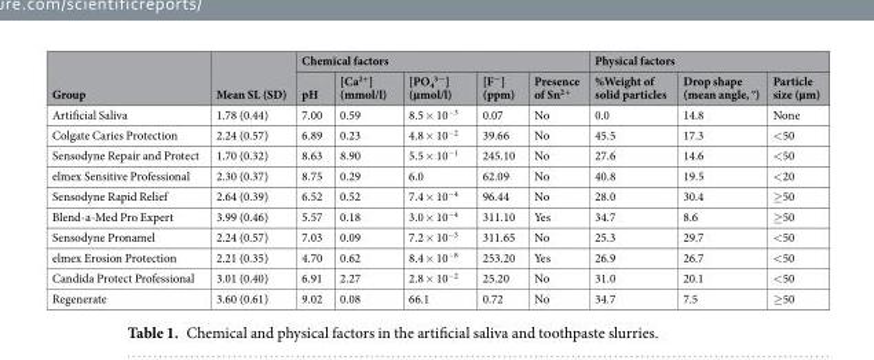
<table><thead><tr><td rowspan="2">Group</td><td rowspan="2">Mean SL (SD)</td><td colspan="5">Chemical factors</td><td colspan="3">Physical factors</td></tr><tr><td>pH</td><td>[Ca<sup>2+</sup>] (mmol/l)</td><td>[PO<sub>4</sub> <sup>3−</sup>] (µmol/l)</td><td>[F<sup>−</sup>] (ppm)</td><td>Presence of Sn<sup>2+</sup></td><td>%Weight of solid particles</td><td>Drop shape (mean angle, °)</td><td>Particle size (µm)</td></tr></thead><tbody><tr><td>Artificial Saliva</td><td>1.78 (0.44)</td><td>7.00</td><td>0.59</td><td>8.5 × 10<sup>−3</sup></td><td>0.07</td><td>No</td><td>0.0</td><td>14.8</td><td>None</td></tr><tr><td>Colgate Caries Protection</td><td>2.24 (0.57)</td><td>6.89</td><td>0.23</td><td>4.8 × 10<sup>−2</sup></td><td>39.66</td><td>No</td><td>45.5</td><td>17.3</td><td>&lt;50</td></tr><tr><td>Sensodyne Repair and Protect</td><td>1.70 (0.32)</td><td>8.63</td><td>8.90</td><td>5.5 × 10<sup>−1</sup></td><td>245.10</td><td>No</td><td>27.6</td><td>14.6</td><td>&lt;50</td></tr><tr><td>elmex Sensitive Professional</td><td>2.30 (0.37)</td><td>8.75</td><td>0.29</td><td>6.0</td><td>62.09</td><td>No</td><td>40.8</td><td>19.5</td><td>&lt;20</td></tr><tr><td>Sensodyne Rapid Relief</td><td>2.64 (0.39)</td><td>6.52</td><td>0.52</td><td>7.4 × 10<sup>−4</sup></td><td>96.44</td><td>No</td><td>28.0</td><td>30.4</td><td>≥50</td></tr><tr><td>Blend-a-Med Pro Expert</td><td>3.99 (0.46)</td><td>5.57</td><td>0.18</td><td>3.0 × 10<sup>−4</sup></td><td>311.10</td><td>Yes</td><td>34.7</td><td>8.6</td><td>≥50</td></tr><tr><td>Sensodyne Pronamel</td><td>2.24 (0.57)</td><td>7.03</td><td>0.09</td><td>7.2 × 10<sup>−3</sup></td><td>311.65</td><td>No</td><td>25.3</td><td>29.7</td><td>&lt;50</td></tr><tr><td>elmex Erosion Protection</td><td>2.21 (0.35)</td><td>4.70</td><td>0.62</td><td>8.4 × 10<sup>−8</sup></td><td>253.20</td><td>Yes</td><td>26.9</td><td>26.7</td><td>&lt;50</td></tr><tr><td>Candida Protect Professional</td><td>3.01 (0.40)</td><td>6.91</td><td>2.27</td><td>2.8 × 10<sup>−2</sup></td><td>25.20</td><td>No</td><td>31.0</td><td>20.1</td><td>&lt;50</td></tr><tr><td>Regenerate</td><td>3.60 (0.61)</td><td>9.02</td><td>0.08</td><td>66.1</td><td>0.72</td><td>No</td><td>34.7</td><td>7.5</td><td>≥50</td></tr></tbody></table>